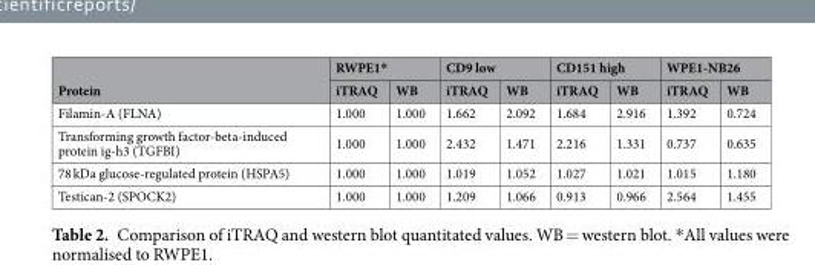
<table><thead><tr><td rowspan="2">Protein</td><td colspan="2">RWPE1*</td><td colspan="2">CD9 low</td><td colspan="2">CD151 high</td><td colspan="2">WPE1-NB26</td></tr><tr><td>iTRAQ</td><td>WB</td><td>iTRAQ</td><td>WB</td><td>iTRAQ</td><td>WB</td><td>iTRAQ</td><td>WB</td></tr></thead><tbody><tr><td>Filamin-A (FLNA)</td><td>1.000</td><td>1.000</td><td>1.662</td><td>2.092</td><td>1.684</td><td>2.916</td><td>1.392</td><td>0.724</td></tr><tr><td>Transforming growth factor-beta-induced protein ig-h3 (TGFBI)</td><td>1.000</td><td>1.000</td><td>2.432</td><td>1.471</td><td>2.216</td><td>1.331</td><td>0.737</td><td>0.635</td></tr><tr><td>78 kDa glucose-regulated protein (HSPA5)</td><td>1.000</td><td>1.000</td><td>1.019</td><td>1.052</td><td>1.027</td><td>1.021</td><td>1.015</td><td>1.180</td></tr><tr><td>Testican-2 (SPOCK2)</td><td>1.000</td><td>1.000</td><td>1.209</td><td>1.066</td><td>0.913</td><td>0.966</td><td>2.564</td><td>1.455</td></tr></tbody></table>